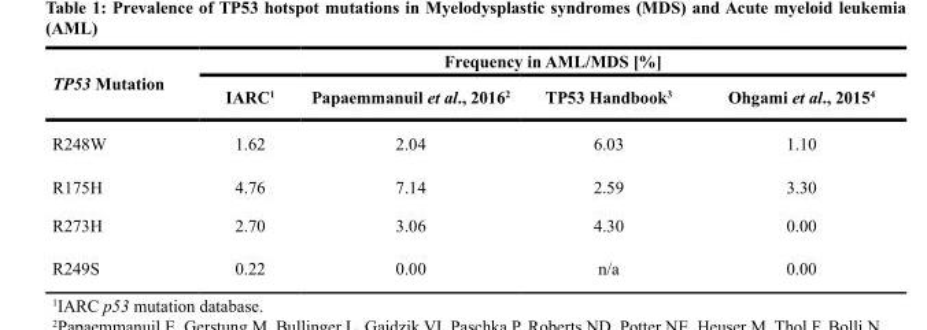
<table><thead><tr><td rowspan="2">TP53 Mutation</td><td colspan="4">Frequency in AML/MDS [%]</td></tr><tr><td>IARC<sup>1</sup></td><td>Papaemmanuil et al., 2016<sup>2</sup></td><td>TP53 Handbook<sup>3</sup></td><td>Ohgami et al., 2015<sup>4</sup></td></tr></thead><tbody><tr><td>R248W</td><td>1.62</td><td>2.04</td><td>6.03</td><td>1.10</td></tr><tr><td>R175H</td><td>4.76</td><td>7.14</td><td>2.59</td><td>3.30</td></tr><tr><td>R273H</td><td>2.70</td><td>3.06</td><td>4.30</td><td>0.00</td></tr><tr><td>R249S</td><td>0.22</td><td>0.00</td><td>n/a</td><td>0.00</td></tr></tbody></table>